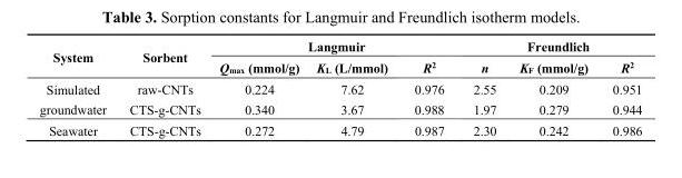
<table><thead><tr><td rowspan="2">System</td><td rowspan="2">Sorbent</td><td colspan="3">Langmuir</td><td colspan="3">Freundlich</td></tr><tr><td>Q<sub>max</sub> (mmol/g)</td><td>K<sub>L</sub> (L/mmol)</td><td>R<sup>2</sup></td><td>n</td><td>K<sub>F</sub> (mmol/g)</td><td>R<sup>2</sup></td></tr></thead><tbody><tr><td rowspan="2">Simulated groundwater</td><td>raw-CNTs</td><td>0.224</td><td>7.62</td><td>0.976</td><td>2.55</td><td>0.209</td><td>0.951</td></tr><tr><td>CTS-g-CNTs</td><td>0.340</td><td>3.67</td><td>0.988</td><td>1.97</td><td>0.279</td><td>0.944</td></tr><tr><td>Seawater</td><td>CTS-g-CNTs</td><td>0.272</td><td>4.79</td><td>0.987</td><td>2.30</td><td>0.242</td><td>0.986</td></tr></tbody></table>